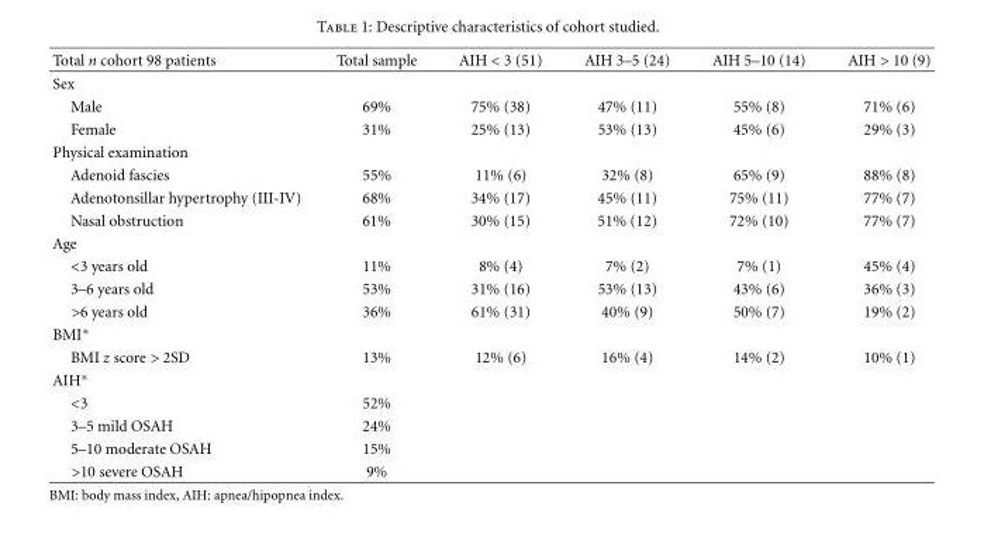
<table><thead><tr><td>Total n cohort 98 patients</td><td>Total sample</td><td>AIH &lt; 3 (51)</td><td>AIH 3–5 (24)</td><td>AIH 5–10 (14)</td><td>AIH &gt; 10 (9)</td></tr></thead><tbody><tr><td colspan="6">Sex</td></tr><tr><td>Male</td><td>69%</td><td>75% (38)</td><td>47% (11)</td><td>55% (8)</td><td>71% (6)</td></tr><tr><td>Female</td><td>31%</td><td>25% (13)</td><td>53% (13)</td><td>45% (6)</td><td>29% (3)</td></tr><tr><td colspan="6">Physical examination</td></tr><tr><td>Adenoid fascies</td><td>55%</td><td>11% (6)</td><td>32% (8)</td><td>65% (9)</td><td>88% (8)</td></tr><tr><td>Adenotonsillar hypertrophy (III-IV)</td><td>68%</td><td>34% (17)</td><td>45% (11)</td><td>75% (11)</td><td>77% (7)</td></tr><tr><td>Nasal obstruction</td><td>61%</td><td>30% (15)</td><td>51% (12)</td><td>72% (10)</td><td>77% (7)</td></tr><tr><td colspan="6">Age</td></tr><tr><td>&lt;3 years old</td><td>11%</td><td>8% (4)</td><td>7% (2)</td><td>7% (1)</td><td>45% (4)</td></tr><tr><td>3–6 years old</td><td>53%</td><td>31% (16)</td><td>53% (13)</td><td>43% (6)</td><td>36% (3)</td></tr><tr><td>&gt;6 years old</td><td>36%</td><td>61% (31)</td><td>40% (9)</td><td>50% (7)</td><td>19% (2)</td></tr><tr><td colspan="6">BMI∗</td></tr><tr><td>BMI z score &gt; 2SD</td><td>13%</td><td>12% (6)</td><td>16% (4)</td><td>14% (2)</td><td>10% (1)</td></tr><tr><td colspan="6">AIH∗</td></tr><tr><td>&lt;3</td><td>52%</td><td></td><td></td><td></td><td></td></tr><tr><td>3–5 mild OSAH</td><td>24%</td><td></td><td></td><td></td><td></td></tr><tr><td>5–10 moderate OSAH</td><td>15%</td><td></td><td></td><td></td><td></td></tr><tr><td>&gt;10 severe OSAH</td><td>9%</td><td></td><td></td><td></td><td></td></tr></tbody></table>